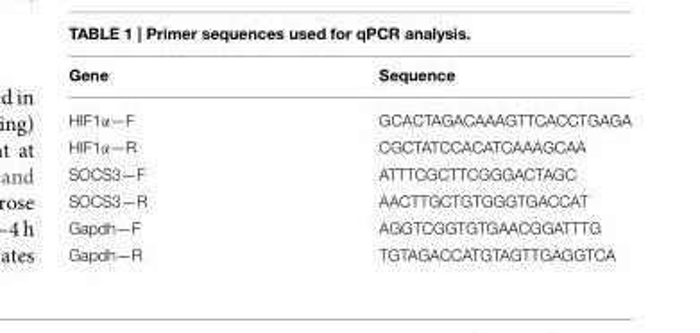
<table><thead><tr><td>Gene</td><td>Sequence</td></tr></thead><tbody><tr><td>HIF1α—F</td><td>GCACTAGACAAAGTTCACCTGAGA</td></tr><tr><td>HIF1α—R</td><td>CGCTATCCACATCAAAGCAA</td></tr><tr><td>SOCS3—F</td><td>ATTTCGCTTCGGGACTAGC</td></tr><tr><td>SOCS3—R</td><td>AACTTGCTGTGGGTGACCAT</td></tr><tr><td>Gapdh—F</td><td>AGGTCGGTGTGAACGGATTTG</td></tr><tr><td>Gapdh—R</td><td>TGTAGACCATGTAGTTGAGGTCA</td></tr></tbody></table>